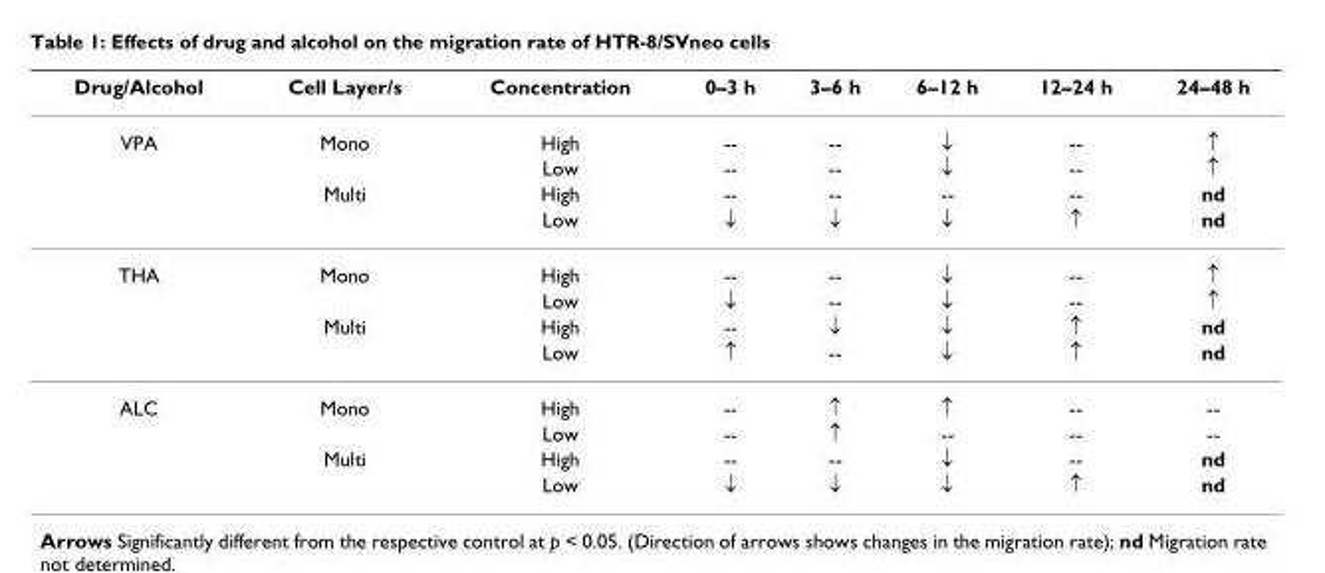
<table><thead><tr><td>Drug/Alcohol</td><td>Cell Layer/s</td><td>Concentration</td><td>0–3 h</td><td>3–6 h</td><td>6–12 h</td><td>12–24 h</td><td>24–48 h</td></tr></thead><tbody><tr><td rowspan="4">VPA</td><td>Mono</td><td>High</td><td>--</td><td>--</td><td>↓</td><td>--</td><td>↑</td></tr><tr><td></td><td>Low</td><td>--</td><td>--</td><td>↓</td><td>--</td><td>↑</td></tr><tr><td>Multi</td><td>High</td><td>--</td><td>--</td><td>--</td><td>--</td><td>nd</td></tr><tr><td></td><td>Low</td><td>↓</td><td>↓</td><td>↓</td><td>↑</td><td>nd</td></tr><tr><td rowspan="4">THA</td><td>Mono</td><td>High</td><td>--</td><td>--</td><td>↓</td><td>--</td><td>↑</td></tr><tr><td></td><td>Low</td><td>↓</td><td>--</td><td>↓</td><td>--</td><td>↑</td></tr><tr><td>Multi</td><td>High</td><td>--</td><td>↓</td><td>↓</td><td>↑</td><td>nd</td></tr><tr><td></td><td>Low</td><td>↑</td><td>--</td><td>↓</td><td>↑</td><td>nd</td></tr><tr><td rowspan="4">ALC</td><td>Mono</td><td>High</td><td>--</td><td>↑</td><td>↑</td><td>--</td><td>--</td></tr><tr><td></td><td>Low</td><td>--</td><td>↑</td><td>--</td><td>--</td><td>--</td></tr><tr><td>Multi</td><td>High</td><td>--</td><td>--</td><td>↓</td><td>--</td><td>nd</td></tr><tr><td></td><td>Low</td><td>↓</td><td>↓</td><td>↓</td><td>↑</td><td>nd</td></tr></tbody></table>